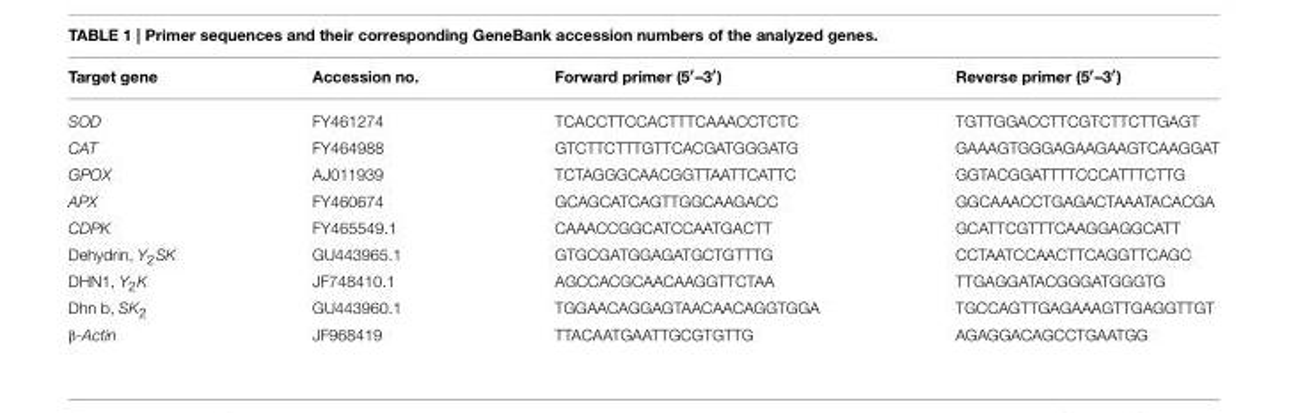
<table><thead><tr><td>Target gene</td><td>Accession no.</td><td>Forward primer (5′–3′)</td><td>Reverse primer (5′–3′)</td></tr></thead><tbody><tr><td>SOD</td><td>FY461274</td><td>TCACCTTCCACTTTCAAACCTCTC</td><td>TGTTGGACCTTCGTCTTCTTGAGT</td></tr><tr><td>CAT</td><td>FY464988</td><td>GTCTTCTTTGTTCACGATGGGATG</td><td>GAAAGTGGGAGAAGAAGTCAAGGAT</td></tr><tr><td>GPOX</td><td>AJ011939</td><td>TCTAGGGCAACGGTTAATTCATTC</td><td>GGTACGGATTTTCCCATTTCTTG</td></tr><tr><td>APX</td><td>FY460674</td><td>GCAGCATCAGTTGGCAAGACC</td><td>GGCAAACCTGAGACTAAATACACGA</td></tr><tr><td>CDPK</td><td>FY465549.1</td><td>CAAACCGGCATCCAATGACTT</td><td>GCATTCGTTTCAAGGAGGCATT</td></tr><tr><td>Dehydrin, Y<sub>2</sub>SK</td><td>GU443965.1</td><td>GTGCGATGGAGATGCTGTTTG</td><td>CCTAATCCAACTTCAGGTTCAGC</td></tr><tr><td>DHN1, Y<sub>2</sub>K</td><td>JF748410.1</td><td>AGCCACGCAACAAGGTTCTAA</td><td>TTGAGGATACGGGATGGGTG</td></tr><tr><td>Dhn b, SK<sub>2</sub></td><td>GU443960.1</td><td>TGGAACAGGAGTAACAACAGGTGGA</td><td>TGCCAGTTGAGAAAGTTGAGGTTGT</td></tr><tr><td>β-Actin</td><td>JF968419</td><td>TTACAATGAATTGCGTGTTG</td><td>AGAGGACAGCCTGAATGG</td></tr></tbody></table>